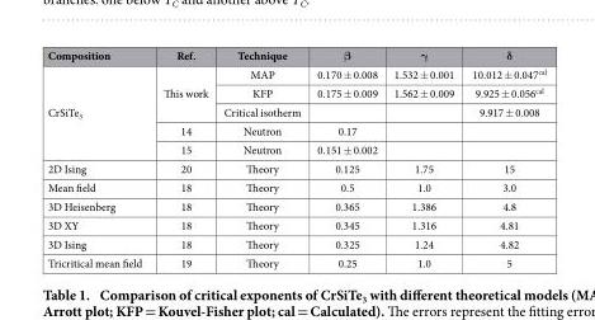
<table><thead><tr><td>Composition</td><td>Ref.</td><td>Technique</td><td>β</td><td>γ</td><td>δ</td></tr></thead><tbody><tr><td rowspan="5">CrSiTe<sub>3</sub></td><td rowspan="3">This work</td><td>MAP</td><td>0.170 ± 0.008</td><td>1.532 ± 0.001</td><td>10.012 ± 0.047<sup>cal</sup></td></tr><tr><td>KFP</td><td>0.175 ± 0.009</td><td>1.562 ± 0.009</td><td>9.925 ± 0.056<sup>cal</sup></td></tr><tr><td>Critical isotherm</td><td></td><td></td><td>9.917 ± 0.008</td></tr><tr><td>14</td><td>Neutron</td><td>0.17</td><td></td><td></td></tr><tr><td>15</td><td>Neutron</td><td>0.151 ± 0.002</td><td></td><td></td></tr><tr><td>2D Ising</td><td>20</td><td>Theory</td><td>0.125</td><td>1.75</td><td>15</td></tr><tr><td>Mean field</td><td>18</td><td>Theory</td><td>0.5</td><td>1.0</td><td>3.0</td></tr><tr><td>3D Heisenberg</td><td>18</td><td>Theory</td><td>0.365</td><td>1.386</td><td>4.8</td></tr><tr><td>3D XY</td><td>18</td><td>Theory</td><td>0.345</td><td>1.316</td><td>4.81</td></tr><tr><td>3D Ising</td><td>18</td><td>Theory</td><td>0.325</td><td>1.24</td><td>4.82</td></tr><tr><td>Tricritical mean field</td><td>19</td><td>Theory</td><td>0.25</td><td>1.0</td><td>5</td></tr></tbody></table>